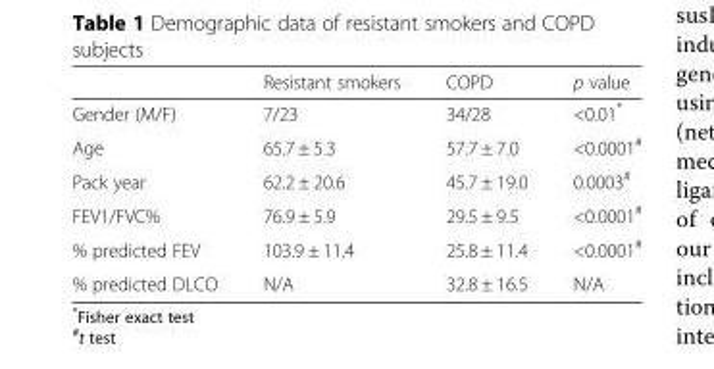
<table><thead><tr><td></td><td>Resistant smokers</td><td>COPD</td><td>p value</td></tr></thead><tbody><tr><td>Gender (M/F)</td><td>7/23</td><td>34/28</td><td>&lt;0.01*</td></tr><tr><td>Age</td><td>65.7 ± 5.3</td><td>57.7 ± 7.0</td><td>&lt;0.0001<sup>#</sup></td></tr><tr><td>Pack year</td><td>62.2 ± 20.6</td><td>45.7 ± 19.0</td><td>0.0003<sup>#</sup></td></tr><tr><td>FEV1/FVC%</td><td>76.9 ± 5.9</td><td>29.5 ± 9.5</td><td>&lt;0.0001<sup>#</sup></td></tr><tr><td>% predicted FEV</td><td>103.9 ± 11.4</td><td>25.8 ± 11.4</td><td>&lt;0.0001<sup>#</sup></td></tr><tr><td>% predicted DLCO</td><td>N/A</td><td>32.8 ± 16.5</td><td>N/A</td></tr></tbody></table>